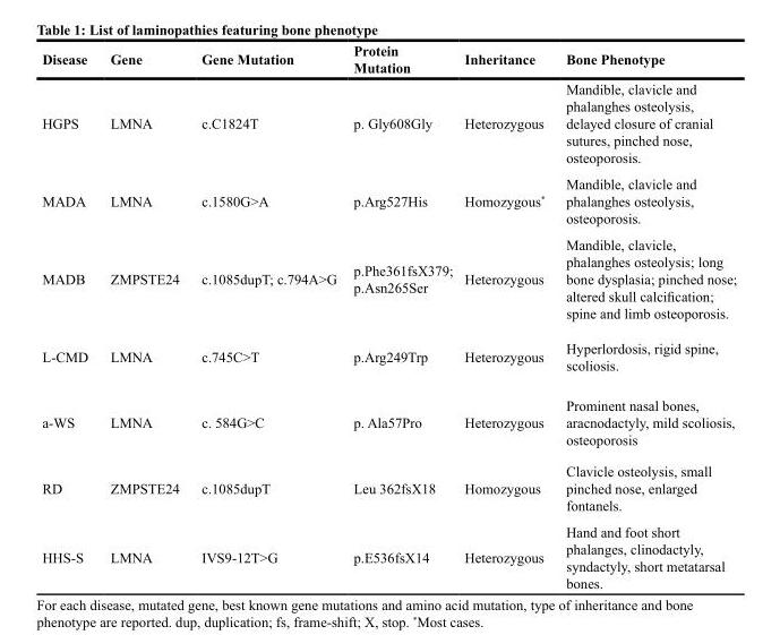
<table><thead><tr><td>Disease</td><td>Gene</td><td>Gene Mutation</td><td>Protein Mutation</td><td>Inheritance</td><td>Bone Phenotype</td></tr></thead><tbody><tr><td>HGPS</td><td>LMNA</td><td>c.C1824T</td><td>p. Gly608Gly</td><td>Heterozygous</td><td>Mandible, clavicle and phalanghes osteolysis, delayed closure of cranial sutures, pinched nose, osteoporosis.</td></tr><tr><td>MADA</td><td>LMNA</td><td>c.1580G&gt;A</td><td>p.Arg527His</td><td>Homozygous*</td><td>Mandible, clavicle and phalanghes osteolysis, osteoporosis.</td></tr><tr><td>MADB</td><td>ZMPSTE24</td><td>c.1085dupT; c.794A&gt;G</td><td>p.Phe361fsX379; p.Asn265Ser</td><td>Heterozygous</td><td>Mandible, clavicle, phalanghes osteolysis; long bone dysplasia; pinched nose; altered skull calcification; spine and limb osteoporosis.</td></tr><tr><td>L-CMD</td><td>LMNA</td><td>c.745C&gt;T</td><td>p.Arg249Trp</td><td>Heterozygous</td><td>Hyperlordosis, rigid spine, scoliosis.</td></tr><tr><td>a-WS</td><td>LMNA</td><td>c. 584G&gt;C</td><td>p. Ala57Pro</td><td>Heterozygous</td><td>Prominent nasal bones, aracnodactyly, mild scoliosis, osteoporosis</td></tr><tr><td>RD</td><td>ZMPSTE24</td><td>c.1085dupT</td><td>Leu 362fsX18</td><td>Homozygous</td><td>Clavicle osteolysis, small pinched nose, enlarged fontanels.</td></tr><tr><td>HHS-S</td><td>LMNA</td><td>IVS9-12T&gt;G</td><td>p.E536fsX14</td><td>Heterozygous</td><td>Hand and foot short phalanges, clinodactyly, syndactyly, short metatarsal bones.</td></tr></tbody></table>